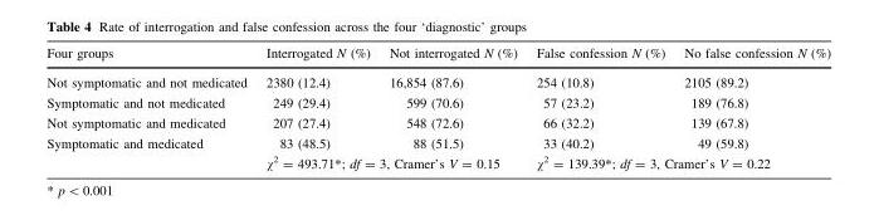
<table><thead><tr><td>Four groups</td><td>Interrogated N (%)</td><td>Not interrogated N (%)</td><td>False confession N (%)</td><td>No false confession N (%)</td></tr></thead><tbody><tr><td>Not symptomatic and not medicated</td><td>2380 (12.4)</td><td>16,854 (87.6)</td><td>254 (10.8)</td><td>2105 (89.2)</td></tr><tr><td>Symptomatic and not medicated</td><td>249 (29.4)</td><td>599 (70.6)</td><td>57 (23.2)</td><td>189 (76.8)</td></tr><tr><td>Not symptomatic and medicated</td><td>207 (27.4)</td><td>548 (72.6)</td><td>66 (32.2)</td><td>139 (67.8)</td></tr><tr><td rowspan="2">Symptomatic and medicated</td><td>83 (48.5)</td><td>88 (51.5)</td><td>33 (40.2)</td><td>49 (59.8)</td></tr><tr><td colspan="2">χ<sup>2</sup> = 493.71*; df = 3, Cramer’s V = 0.15</td><td colspan="2">χ<sup>2</sup> = 139.39*; df = 3, Cramer’s V = 0.22</td></tr></tbody></table>